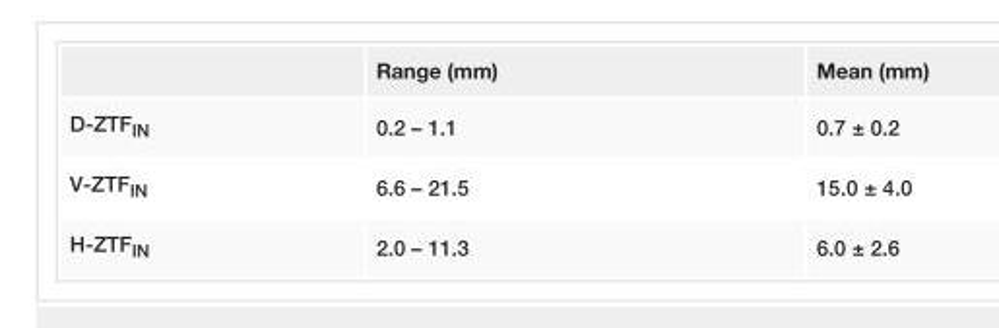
<table><thead><tr><td></td><td>Range (mm)</td><td>Mean (mm)</td></tr></thead><tbody><tr><td>D-ZTF<sub>IN</sub></td><td>0.2 – 1.1</td><td>0.7 ± 0.2</td></tr><tr><td>V-ZTF<sub>IN</sub></td><td>6.6 – 21.5</td><td>15.0 ± 4.0</td></tr><tr><td>H-ZTF<sub>IN</sub></td><td>2.0 – 11.3</td><td>6.0 ± 2.6</td></tr></tbody></table>